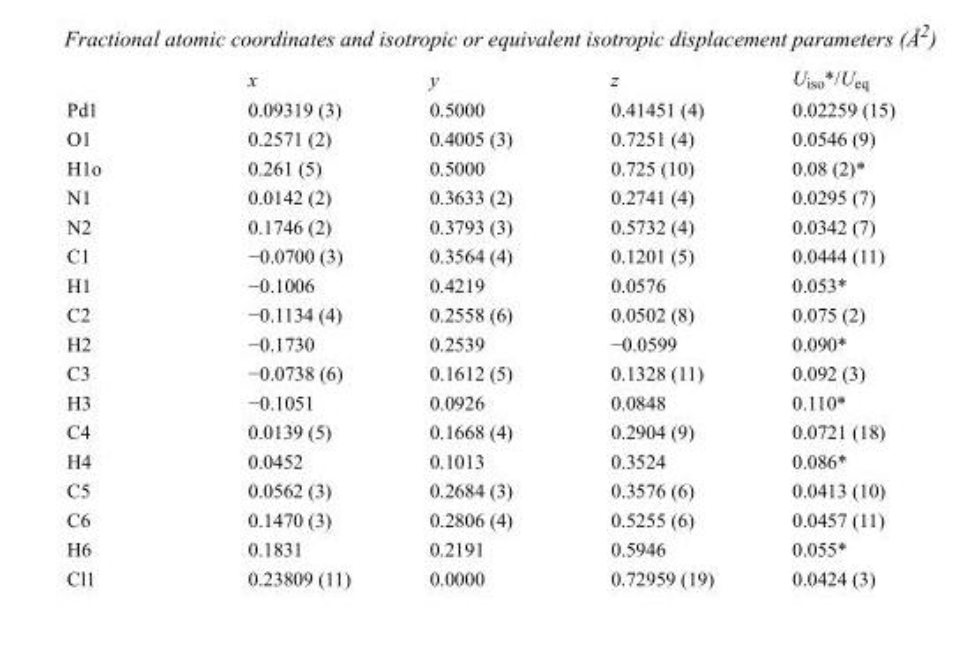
<table><thead><tr><td></td><td>x</td><td>y</td><td>z</td><td>U<sub>iso</sub>*/U<sub>eq</sub></td></tr></thead><tbody><tr><td>Pd1</td><td>0.09319 (3)</td><td>0.5000</td><td>0.41451 (4)</td><td>0.02259 (15)</td></tr><tr><td>O1</td><td>0.2571 (2)</td><td>0.4005 (3)</td><td>0.7251 (4)</td><td>0.0546 (9)</td></tr><tr><td>H1o</td><td>0.261 (5)</td><td>0.5000</td><td>0.725 (10)</td><td>0.08 (2)*</td></tr><tr><td>N1</td><td>0.0142 (2)</td><td>0.3633 (2)</td><td>0.2741 (4)</td><td>0.0295 (7)</td></tr><tr><td>N2</td><td>0.1746 (2)</td><td>0.3793 (3)</td><td>0.5732 (4)</td><td>0.0342 (7)</td></tr><tr><td>C1</td><td>−0.0700 (3)</td><td>0.3564 (4)</td><td>0.1201 (5)</td><td>0.0444 (11)</td></tr><tr><td>H1</td><td>−0.1006</td><td>0.4219</td><td>0.0576</td><td>0.053*</td></tr><tr><td>C2</td><td>−0.1134 (4)</td><td>0.2558 (6)</td><td>0.0502 (8)</td><td>0.075 (2)</td></tr><tr><td>H2</td><td>−0.1730</td><td>0.2539</td><td>−0.0599</td><td>0.090*</td></tr><tr><td>C3</td><td>−0.0738 (6)</td><td>0.1612 (5)</td><td>0.1328 (11)</td><td>0.092 (3)</td></tr><tr><td>H3</td><td>−0.1051</td><td>0.0926</td><td>0.0848</td><td>0.110*</td></tr><tr><td>C4</td><td>0.0139 (5)</td><td>0.1668 (4)</td><td>0.2904 (9)</td><td>0.0721 (18)</td></tr><tr><td>H4</td><td>0.0452</td><td>0.1013</td><td>0.3524</td><td>0.086*</td></tr><tr><td>C5</td><td>0.0562 (3)</td><td>0.2684 (3)</td><td>0.3576 (6)</td><td>0.0413 (10)</td></tr><tr><td>C6</td><td>0.1470 (3)</td><td>0.2806 (4)</td><td>0.5255 (6)</td><td>0.0457 (11)</td></tr><tr><td>H6</td><td>0.1831</td><td>0.2191</td><td>0.5946</td><td>0.055*</td></tr><tr><td>Cl1</td><td>0.23809 (11)</td><td>0.0000</td><td>0.72959 (19)</td><td>0.0424 (3)</td></tr></tbody></table>